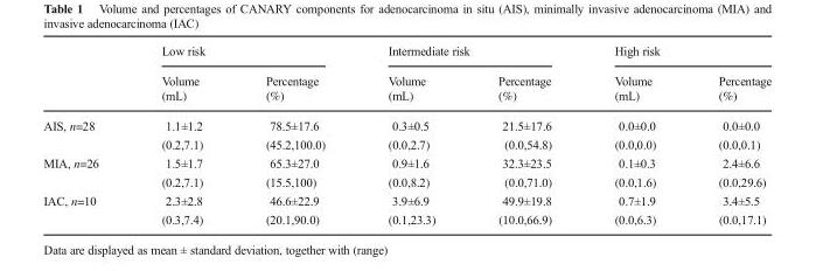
<table><thead><tr><td rowspan="3"></td><td colspan="2">Low risk</td><td colspan="2">Intermediate risk</td><td colspan="2">High risk</td></tr><tr><td rowspan="2">Volume (mL)</td><td rowspan="2">Percentage (%)</td><td rowspan="2">Volume (mL)</td><td rowspan="2">Percentage (%)</td><td rowspan="2">Volume (mL)</td><td rowspan="2">Percentage (%)</td></tr><tr></tr></thead><tbody><tr><td rowspan="2">AIS, n=28</td><td>1.1±1.2</td><td>78.5±17.6</td><td>0.3±0.5</td><td>21.5±17.6</td><td>0.0±0.0</td><td>0.0±0.0</td></tr><tr><td>(0.2,7.1)</td><td>(45.2,100.0)</td><td>(0.0,2.7)</td><td>(0.0,54.8)</td><td>(0.0,0.0)</td><td>(0.0,0.1)</td></tr><tr><td rowspan="2">MIA, n=26</td><td>1.5±1.7</td><td>65.3±27.0</td><td>0.9±1.6</td><td>32.3±23.5</td><td>0.1±0.3</td><td>2.4±6.6</td></tr><tr><td>(0.2,7.1)</td><td>(15.5,100)</td><td>(0.0,8.2)</td><td>(0.0,71.0)</td><td>(0.0,1.6)</td><td>(0.0,29.6)</td></tr><tr><td rowspan="2">IAC, n=10</td><td>2.3±2.8</td><td>46.6±22.9</td><td>3.9±6.9</td><td>49.9±19.8</td><td>0.7±1.9</td><td>3.4±5.5</td></tr><tr><td>(0.3,7.4)</td><td>(20.1,90.0)</td><td>(0.1,23.3)</td><td>(10.0,66.9)</td><td>(0.0,6.3)</td><td>(0.0,17.1)</td></tr></tbody></table>